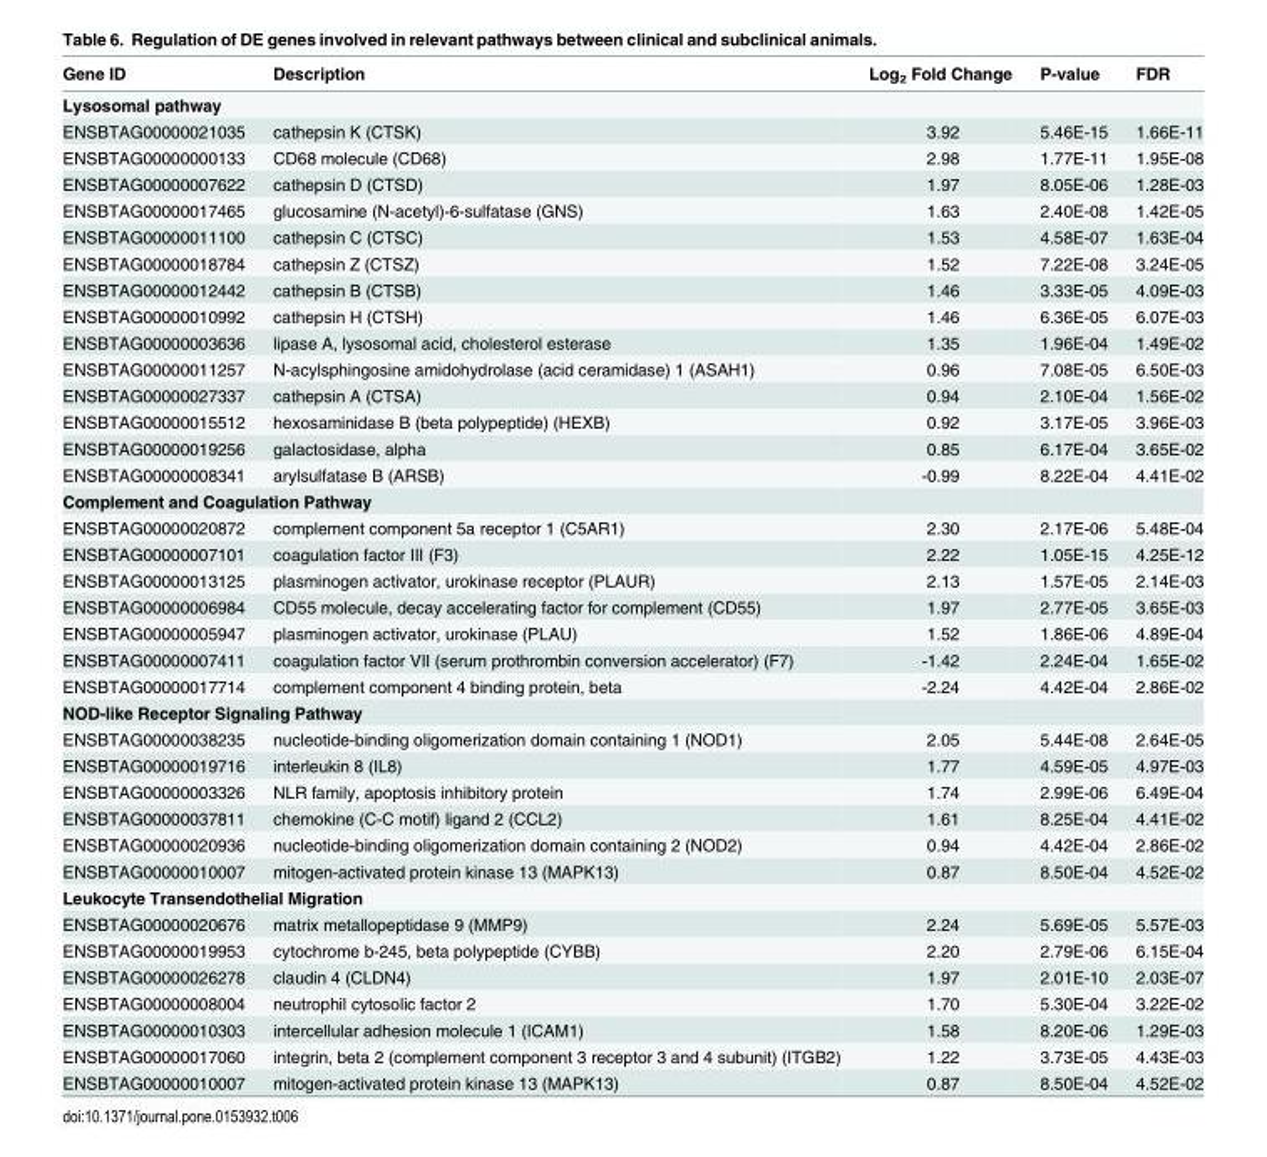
<table><thead><tr><td>Gene ID</td><td>Description</td><td>Log<sub>2</sub> Fold Change</td><td>P-value</td><td>FDR</td></tr></thead><tbody><tr><td colspan="5">Lysosomal pathway</td></tr><tr><td>ENSBTAG00000021035</td><td>cathepsin K (CTSK)</td><td>3.92</td><td>5.46E-15</td><td>1.66E-11</td></tr><tr><td>ENSBTAG00000000133</td><td>CD68 molecule (CD68)</td><td>2.98</td><td>1.77E-11</td><td>1.95E-08</td></tr><tr><td>ENSBTAG00000007622</td><td>cathepsin D (CTSD)</td><td>1.97</td><td>8.05E-06</td><td>1.28E-03</td></tr><tr><td>ENSBTAG00000017465</td><td>glucosamine (N-acetyl)-6-sulfatase (GNS)</td><td>1.63</td><td>2.40E-08</td><td>1.42E-05</td></tr><tr><td>ENSBTAG00000011100</td><td>cathepsin C (CTSC)</td><td>1.53</td><td>4.58E-07</td><td>1.63E-04</td></tr><tr><td>ENSBTAG00000018784</td><td>cathepsin Z (CTSZ)</td><td>1.52</td><td>7.22E-08</td><td>3.24E-05</td></tr><tr><td>ENSBTAG00000012442</td><td>cathepsin B (CTSB)</td><td>1.46</td><td>3.33E-05</td><td>4.09E-03</td></tr><tr><td>ENSBTAG00000010992</td><td>cathepsin H (CTSH)</td><td>1.46</td><td>6.36E-05</td><td>6.07E-03</td></tr><tr><td>ENSBTAG00000003636</td><td>lipase A, lysosomal acid, cholesterol esterase</td><td>1.35</td><td>1.96E-04</td><td>1.49E-02</td></tr><tr><td>ENSBTAG00000011257</td><td>N-acylsphingosine amidohydrolase (acid ceramidase) 1 (ASAH1)</td><td>0.96</td><td>7.08E-05</td><td>6.50E-03</td></tr><tr><td>ENSBTAG00000027337</td><td>cathepsin A (CTSA)</td><td>0.94</td><td>2.10E-04</td><td>1.56E-02</td></tr><tr><td>ENSBTAG00000015512</td><td>hexosaminidase B (beta polypeptide) (HEXB)</td><td>0.92</td><td>3.17E-05</td><td>3.96E-03</td></tr><tr><td>ENSBTAG00000019256</td><td>galactosidase, alpha</td><td>0.85</td><td>6.17E-04</td><td>3.65E-02</td></tr><tr><td>ENSBTAG00000008341</td><td>arylsulfatase B (ARSB)</td><td>-0.99</td><td>8.22E-04</td><td>4.41E-02</td></tr><tr><td colspan="5">Complement and Coagulation Pathway</td></tr><tr><td>ENSBTAG00000020872</td><td>complement component 5a receptor 1 (C5AR1)</td><td>2.30</td><td>2.17E-06</td><td>5.48E-04</td></tr><tr><td>ENSBTAG00000007101</td><td>coagulation factor III (F3)</td><td>2.22</td><td>1.05E-15</td><td>4.25E-12</td></tr><tr><td>ENSBTAG00000013125</td><td>plasminogen activator, urokinase receptor (PLAUR)</td><td>2.13</td><td>1.57E-05</td><td>2.14E-03</td></tr><tr><td>ENSBTAG00000006984</td><td>CD55 molecule, decay accelerating factor for complement (CD55)</td><td>1.97</td><td>2.77E-05</td><td>3.65E-03</td></tr><tr><td>ENSBTAG00000005947</td><td>plasminogen activator, urokinase (PLAU)</td><td>1.52</td><td>1.86E-06</td><td>4.89E-04</td></tr><tr><td>ENSBTAG00000007411</td><td>coagulation factor VII (serum prothrombin conversion accelerator) (F7)</td><td>-1.42</td><td>2.24E-04</td><td>1.65E-02</td></tr><tr><td>ENSBTAG00000017714</td><td>complement component 4 binding protein, beta</td><td>-2.24</td><td>4.42E-04</td><td>2.86E-02</td></tr><tr><td colspan="5">NOD-like Receptor Signaling Pathway</td></tr><tr><td>ENSBTAG00000038235</td><td>nucleotide-binding oligomerization domain containing 1 (NOD1)</td><td>2.05</td><td>5.44E-08</td><td>2.64E-05</td></tr><tr><td>ENSBTAG00000019716</td><td>interleukin 8 (IL8)</td><td>1.77</td><td>4.59E-05</td><td>4.97E-03</td></tr><tr><td>ENSBTAG00000003326</td><td>NLR family, apoptosis inhibitory protein</td><td>1.74</td><td>2.99E-06</td><td>6.49E-04</td></tr><tr><td>ENSBTAG00000037811</td><td>chemokine (C-C motif) ligand 2 (CCL2)</td><td>1.61</td><td>8.25E-04</td><td>4.41E-02</td></tr><tr><td>ENSBTAG00000020936</td><td>nucleotide-binding oligomerization domain containing 2 (NOD2)</td><td>0.94</td><td>4.42E-04</td><td>2.86E-02</td></tr><tr><td>ENSBTAG00000010007</td><td>mitogen-activated protein kinase 13 (MAPK13)</td><td>0.87</td><td>8.50E-04</td><td>4.52E-02</td></tr><tr><td colspan="5">Leukocyte Transendothelial Migration</td></tr><tr><td>ENSBTAG00000020676</td><td>matrix metallopeptidase 9 (MMP9)</td><td>2.24</td><td>5.69E-05</td><td>5.57E-03</td></tr><tr><td>ENSBTAG00000019953</td><td>cytochrome b-245, beta polypeptide (CYBB)</td><td>2.20</td><td>2.79E-06</td><td>6.15E-04</td></tr><tr><td>ENSBTAG00000026278</td><td>claudin 4 (CLDN4)</td><td>1.97</td><td>2.01E-10</td><td>2.03E-07</td></tr><tr><td>ENSBTAG00000008004</td><td>neutrophil cytosolic factor 2</td><td>1.70</td><td>5.30E-04</td><td>3.22E-02</td></tr><tr><td>ENSBTAG00000010303</td><td>intercellular adhesion molecule 1 (ICAM1)</td><td>1.58</td><td>8.20E-06</td><td>1.29E-03</td></tr><tr><td>ENSBTAG00000017060</td><td>integrin, beta 2 (complement component 3 receptor 3 and 4 subunit) (ITGB2)</td><td>1.22</td><td>3.73E-05</td><td>4.43E-03</td></tr><tr><td>ENSBTAG00000010007</td><td>mitogen-activated protein kinase 13 (MAPK13)</td><td>0.87</td><td>8.50E-04</td><td>4.52E-02</td></tr></tbody></table>